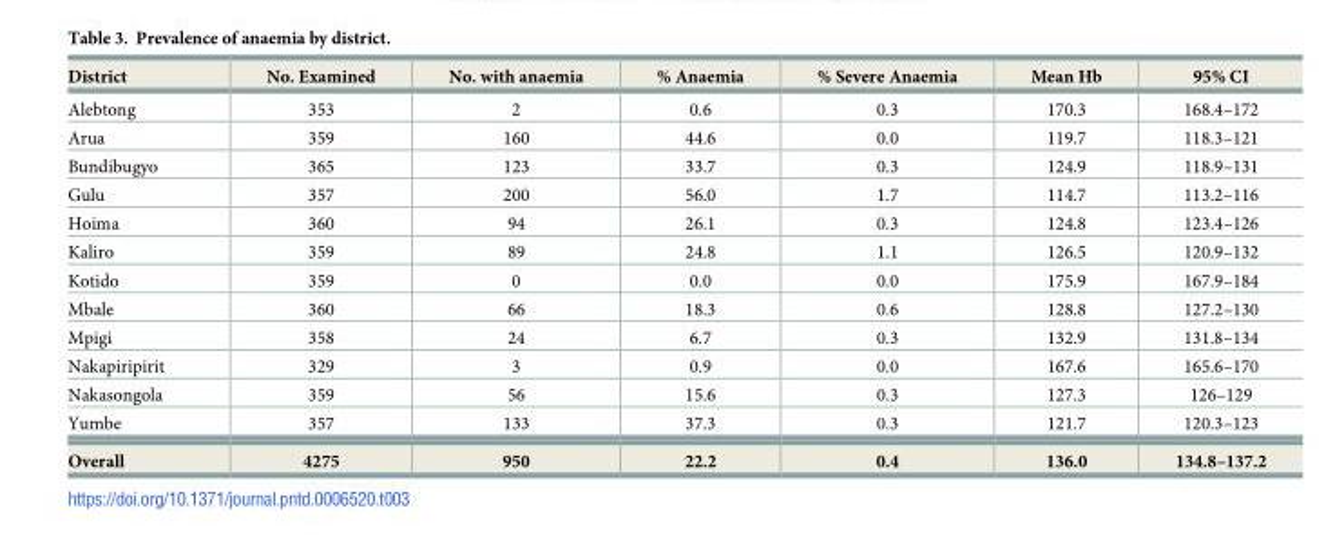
<table><thead><tr><td>District</td><td>No. Examined</td><td>No. with anaemia</td><td>% Anaemia</td><td>% Severe Anaemia</td><td>Mean Hb</td><td>95% CI</td></tr></thead><tbody><tr><td>Alebtong</td><td>353</td><td>2</td><td>0.6</td><td>0.3</td><td>170.3</td><td>168.4–172</td></tr><tr><td>Arua</td><td>359</td><td>160</td><td>44.6</td><td>0.0</td><td>119.7</td><td>118.3–121</td></tr><tr><td>Bundibugyo</td><td>365</td><td>123</td><td>33.7</td><td>0.3</td><td>124.9</td><td>118.9–131</td></tr><tr><td>Gulu</td><td>357</td><td>200</td><td>56.0</td><td>1.7</td><td>114.7</td><td>113.2–116</td></tr><tr><td>Hoima</td><td>360</td><td>94</td><td>26.1</td><td>0.3</td><td>124.8</td><td>123.4–126</td></tr><tr><td>Kaliro</td><td>359</td><td>89</td><td>24.8</td><td>1.1</td><td>126.5</td><td>120.9–132</td></tr><tr><td>Kotido</td><td>359</td><td>0</td><td>0.0</td><td>0.0</td><td>175.9</td><td>167.9–184</td></tr><tr><td>Mbale</td><td>360</td><td>66</td><td>18.3</td><td>0.6</td><td>128.8</td><td>127.2–130</td></tr><tr><td>Mpigi</td><td>358</td><td>24</td><td>6.7</td><td>0.3</td><td>132.9</td><td>131.8–134</td></tr><tr><td>Nakapiripirit</td><td>329</td><td>3</td><td>0.9</td><td>0.0</td><td>167.6</td><td>165.6–170</td></tr><tr><td>Nakasongola</td><td>359</td><td>56</td><td>15.6</td><td>0.3</td><td>127.3</td><td>126–129</td></tr><tr><td>Yumbe</td><td>357</td><td>133</td><td>37.3</td><td>0.3</td><td>121.7</td><td>120.3–123</td></tr><tr><td>Overall</td><td>4275</td><td>950</td><td>22.2</td><td>0.4</td><td>136.0</td><td>134.8–137.2</td></tr></tbody></table>